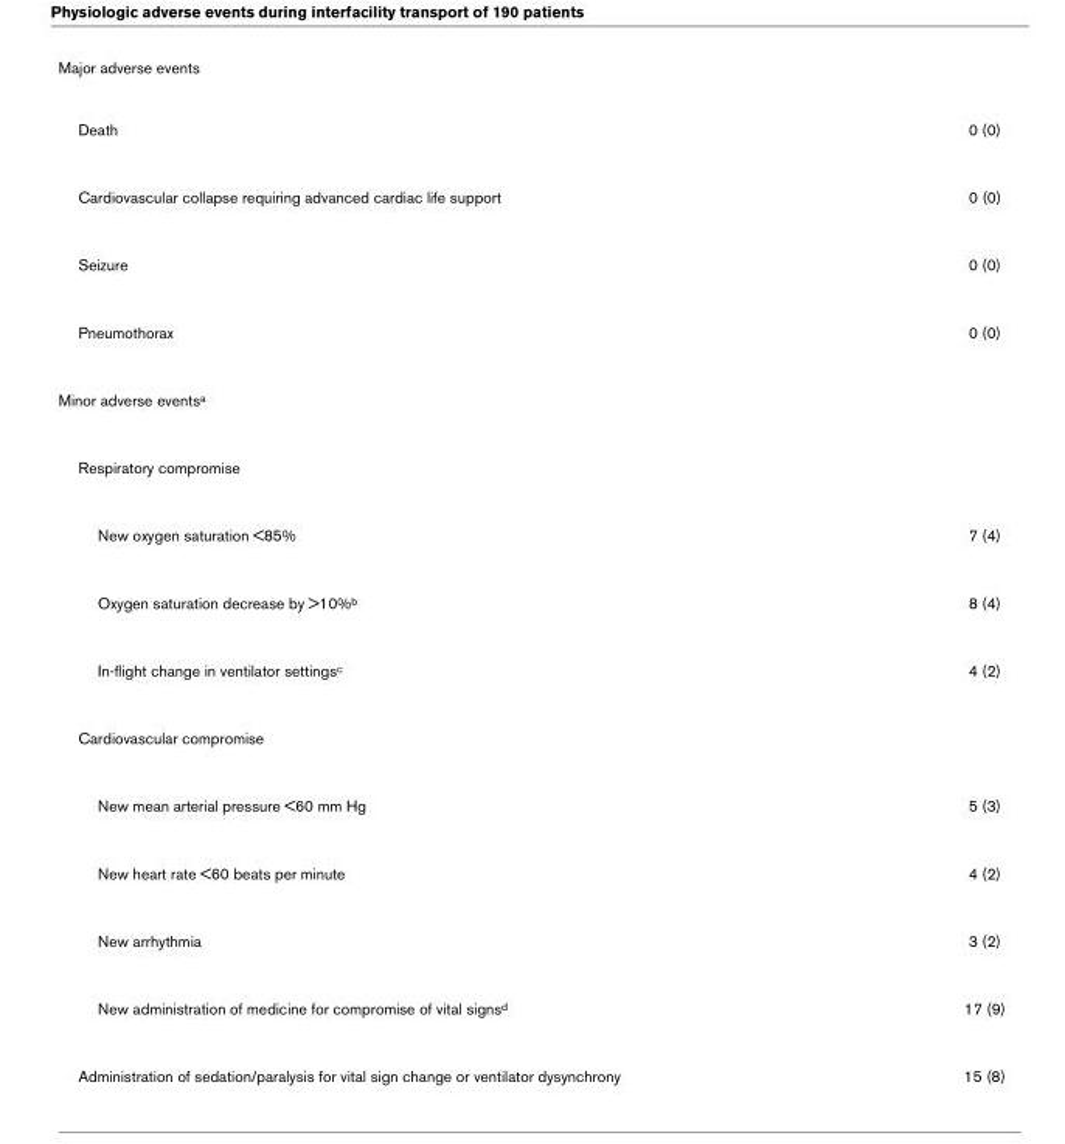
<table><tbody><tr><td colspan="2">Major adverse events</td></tr><tr><td>Death</td><td>0 (0)</td></tr><tr><td>Cardiovascular collapse requiring advanced cardiac life support</td><td>0 (0)</td></tr><tr><td>Seizure</td><td>0 (0)</td></tr><tr><td>Pneumothorax</td><td>0 (0)</td></tr><tr><td colspan="2">Minor adverse events<sup>a</sup></td></tr><tr><td colspan="2">Respiratory compromise</td></tr><tr><td>New oxygen saturation &lt;85%</td><td>7 (4)</td></tr><tr><td>Oxygen saturation decrease by &gt;10%<sup>b</sup></td><td>8 (4)</td></tr><tr><td>In-flight change in ventilator settings<sup>c</sup></td><td>4 (2)</td></tr><tr><td colspan="2">Cardiovascular compromise</td></tr><tr><td>New mean arterial pressure &lt;60 mm Hg</td><td>5 (3)</td></tr><tr><td>New heart rate &lt;60 beats per minute</td><td>4 (2)</td></tr><tr><td>New arrhythmia</td><td>3 (2)</td></tr><tr><td>New administration of medicine for compromise of vital signs<sup>d</sup></td><td>17 (9)</td></tr><tr><td>Administration of sedation/paralysis for vital sign change or ventilator dysynchrony</td><td>15 (8)</td></tr></tbody></table>